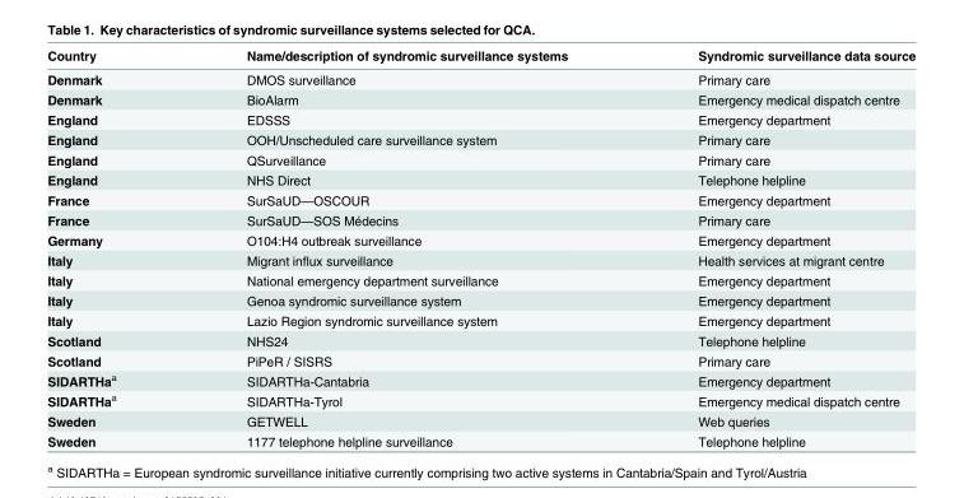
<table><thead><tr><td>Country</td><td>Name/description of syndromic surveillance systems</td><td>Syndromic surveillance data source</td></tr></thead><tbody><tr><td>Denmark</td><td>DMOS surveillance</td><td>Primary care</td></tr><tr><td>Denmark</td><td>BioAlarm</td><td>Emergency medical dispatch centre</td></tr><tr><td>England</td><td>EDSSS</td><td>Emergency department</td></tr><tr><td>England</td><td>OOH/Unscheduled care surveillance system</td><td>Primary care</td></tr><tr><td>England</td><td>QSurveillance</td><td>Primary care</td></tr><tr><td>England</td><td>NHS Direct</td><td>Telephone helpline</td></tr><tr><td>France</td><td>SurSaUD—OSCOUR</td><td>Emergency department</td></tr><tr><td>France</td><td>SurSaUD—SOS Médecins</td><td>Primary care</td></tr><tr><td>Germany</td><td>O104:H4 outbreak surveillance</td><td>Emergency department</td></tr><tr><td>Italy</td><td>Migrant influx surveillance</td><td>Health services at migrant centre</td></tr><tr><td>Italy</td><td>National emergency department surveillance</td><td>Emergency department</td></tr><tr><td>Italy</td><td>Genoa syndromic surveillance system</td><td>Emergency department</td></tr><tr><td>Italy</td><td>Lazio Region syndromic surveillance system</td><td>Emergency department</td></tr><tr><td>Scotland</td><td>NHS24</td><td>Telephone helpline</td></tr><tr><td>Scotland</td><td>PiPeR / SISRS</td><td>Primary care</td></tr><tr><td>SIDARTHa<sup>a</sup></td><td>SIDARTHa-Cantabria</td><td>Emergency department</td></tr><tr><td>SIDARTHa<sup>a</sup></td><td>SIDARTHa-Tyrol</td><td>Emergency medical dispatch centre</td></tr><tr><td>Sweden</td><td>GETWELL</td><td>Web queries</td></tr><tr><td>Sweden</td><td>1177 telephone helpline surveillance</td><td>Telephone helpline</td></tr></tbody></table>